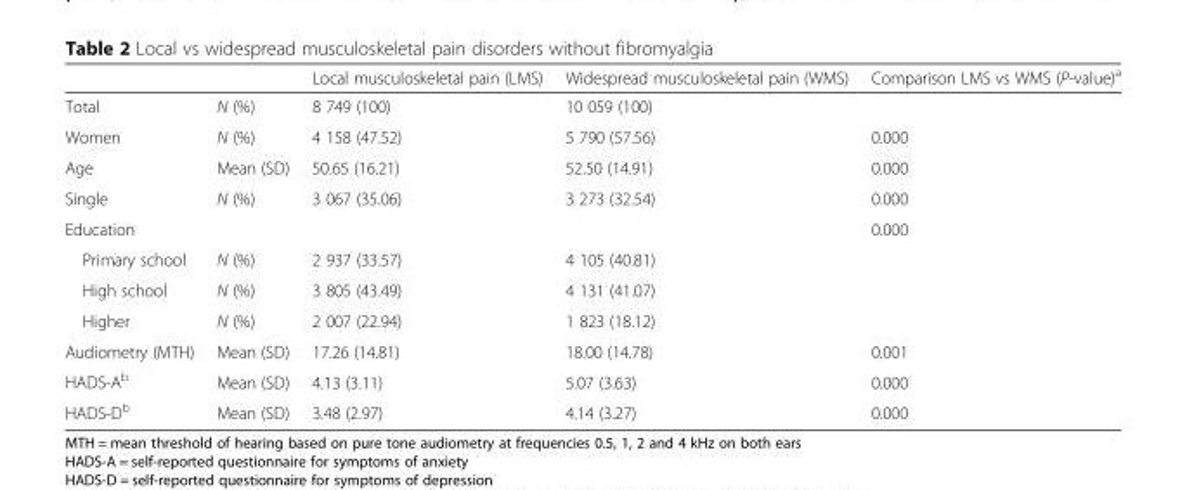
<table><thead><tr><td></td><td></td><td>Local musculoskeletal pain (LMS)</td><td>Widespread musculoskeletal pain (WMS)</td><td>Comparison LMS vs WMS (P-value)<sup>a</sup></td></tr></thead><tbody><tr><td>Total</td><td>N (%)</td><td>8 749 (100)</td><td>10 059 (100)</td><td></td></tr><tr><td>Women</td><td>N (%)</td><td>4 158 (47.52)</td><td>5 790 (57.56)</td><td>0.000</td></tr><tr><td>Age</td><td>Mean (SD)</td><td>50.65 (16.21)</td><td>52.50 (14.91)</td><td>0.000</td></tr><tr><td>Single</td><td>N (%)</td><td>3 067 (35.06)</td><td>3 273 (32.54)</td><td>0.000</td></tr><tr><td>Education</td><td></td><td></td><td></td><td>0.000</td></tr><tr><td>Primary school</td><td>N (%)</td><td>2 937 (33.57)</td><td>4 105 (40.81)</td><td></td></tr><tr><td>High school</td><td>N (%)</td><td>3 805 (43.49)</td><td>4 131 (41.07)</td><td></td></tr><tr><td>Higher</td><td>N (%)</td><td>2 007 (22.94)</td><td>1 823 (18.12)</td><td></td></tr><tr><td>Audiometry (MTH)</td><td>Mean (SD)</td><td>17.26 (14.81)</td><td>18.00 (14.78)</td><td>0.001</td></tr><tr><td>HADS-A<sup>b</sup></td><td>Mean (SD)</td><td>4.13 (3.11)</td><td>5.07 (3.63)</td><td>0.000</td></tr><tr><td>HADS-D<sup>b</sup></td><td>Mean (SD)</td><td>3.48 (2.97)</td><td>4.14 (3.27)</td><td>0.000</td></tr></tbody></table>